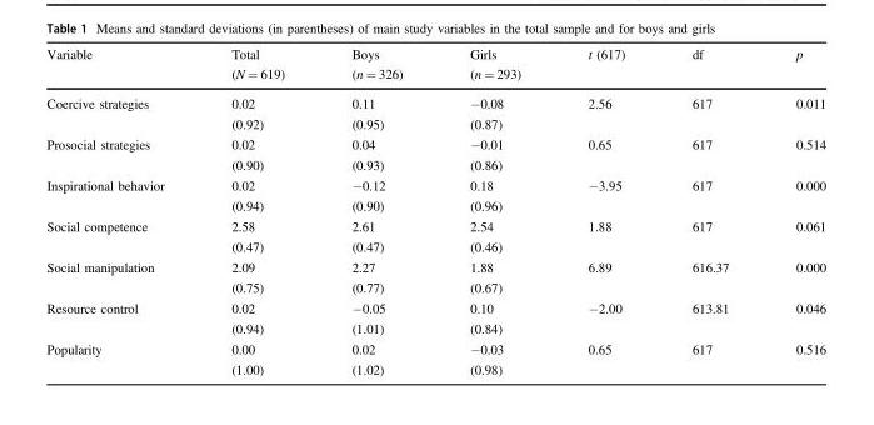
<table><thead><tr><td rowspan="2">Variable</td><td rowspan="2">Total (N = 619)</td><td rowspan="2">Boys (n = 326)</td><td rowspan="2">Girls (n = 293)</td><td rowspan="2">t (617)</td><td rowspan="2">df</td><td rowspan="2">p</td></tr><tr></tr></thead><tbody><tr><td rowspan="2">Coercive strategies</td><td>0.02</td><td>0.11</td><td>−0.08</td><td>2.56</td><td>617</td><td>0.011</td></tr><tr><td>(0.92)</td><td>(0.95)</td><td>(0.87)</td><td></td><td></td><td></td></tr><tr><td rowspan="2">Prosocial strategies</td><td>0.02</td><td>0.04</td><td>−0.01</td><td>0.65</td><td>617</td><td>0.514</td></tr><tr><td>(0.90)</td><td>(0.93)</td><td>(0.86)</td><td></td><td></td><td></td></tr><tr><td rowspan="2">Inspirational behavior</td><td>0.02</td><td>−0.12</td><td>0.18</td><td>−3.95</td><td>617</td><td>0.000</td></tr><tr><td>(0.94)</td><td>(0.90)</td><td>(0.96)</td><td></td><td></td><td></td></tr><tr><td rowspan="2">Social competence</td><td>2.58</td><td>2.61</td><td>2.54</td><td>1.88</td><td>617</td><td>0.061</td></tr><tr><td>(0.47)</td><td>(0.47)</td><td>(0.46)</td><td></td><td></td><td></td></tr><tr><td rowspan="2">Social manipulation</td><td>2.09</td><td>2.27</td><td>1.88</td><td>6.89</td><td>616.37</td><td>0.000</td></tr><tr><td>(0.75)</td><td>(0.77)</td><td>(0.67)</td><td></td><td></td><td></td></tr><tr><td rowspan="2">Resource control</td><td>0.02</td><td>−0.05</td><td>0.10</td><td>−2.00</td><td>613.81</td><td>0.046</td></tr><tr><td>(0.94)</td><td>(1.01)</td><td>(0.84)</td><td></td><td></td><td></td></tr><tr><td rowspan="2">Popularity</td><td>0.00</td><td>0.02</td><td>−0.03</td><td>0.65</td><td>617</td><td>0.516</td></tr><tr><td>(1.00)</td><td>(1.02)</td><td>(0.98)</td><td></td><td></td><td></td></tr></tbody></table>